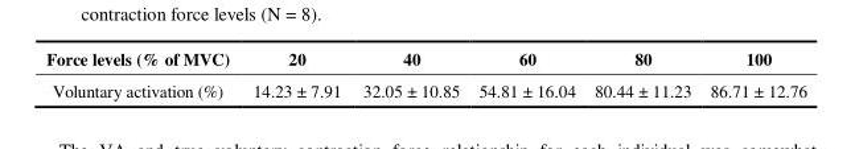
<table><thead><tr><td>Force levels (% of MVC)</td><td>20</td><td>40</td><td>60</td><td>80</td><td>100</td></tr></thead><tbody><tr><td>Voluntary activation (%)</td><td>14.23 ± 7.91</td><td>32.05 ± 10.85</td><td>54.81 ± 16.04</td><td>80.44 ± 11.23</td><td>86.71 ± 12.76</td></tr></tbody></table>